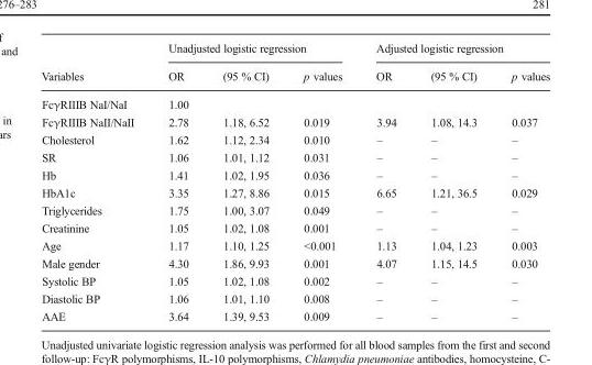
<table><thead><tr><td rowspan="2">Variables</td><td colspan="3">Unadjusted logistic regression</td><td colspan="3">Adjusted logistic regression</td></tr><tr><td>OR</td><td>(95 % CI)</td><td>p values</td><td>OR</td><td>(95 % CI)</td><td>p values</td></tr></thead><tbody><tr><td>FcγRIIIB NaI/NaI</td><td>1.00</td><td></td><td></td><td></td><td></td><td></td></tr><tr><td>FcγRIIIB NaII/NaII</td><td>2.78</td><td>1.18, 6.52</td><td>0.019</td><td>3.94</td><td>1.08, 14.3</td><td>0.037</td></tr><tr><td>Cholesterol</td><td>1.62</td><td>1.12, 2.34</td><td>0.010</td><td>–</td><td>–</td><td>–</td></tr><tr><td>SR</td><td>1.06</td><td>1.01, 1.12</td><td>0.031</td><td>–</td><td>–</td><td>–</td></tr><tr><td>Hb</td><td>1.41</td><td>1.02, 1.95</td><td>0.036</td><td>–</td><td>–</td><td>–</td></tr><tr><td>HbA1c</td><td>3.35</td><td>1.27, 8.86</td><td>0.015</td><td>6.65</td><td>1.21, 36.5</td><td>0.029</td></tr><tr><td>Triglycerides</td><td>1.75</td><td>1.00, 3.07</td><td>0.049</td><td>–</td><td>–</td><td>–</td></tr><tr><td>Creatinine</td><td>1.05</td><td>1.02, 1.08</td><td>0.001</td><td>–</td><td>–</td><td>–</td></tr><tr><td>Age</td><td>1.17</td><td>1.10, 1.25</td><td>&lt;0.001</td><td>1.13</td><td>1.04, 1.23</td><td>0.003</td></tr><tr><td>Male gender</td><td>4.30</td><td>1.86, 9.93</td><td>0.001</td><td>4.07</td><td>1.15, 14.5</td><td>0.030</td></tr><tr><td>Systolic BP</td><td>1.05</td><td>1.02, 1.08</td><td>0.002</td><td>–</td><td>–</td><td>–</td></tr><tr><td>Diastolic BP</td><td>1.06</td><td>1.01, 1.10</td><td>0.008</td><td>–</td><td>–</td><td>–</td></tr><tr><td>AAE</td><td>3.64</td><td>1.39, 9.53</td><td>0.009</td><td>–</td><td>–</td><td>–</td></tr></tbody></table>